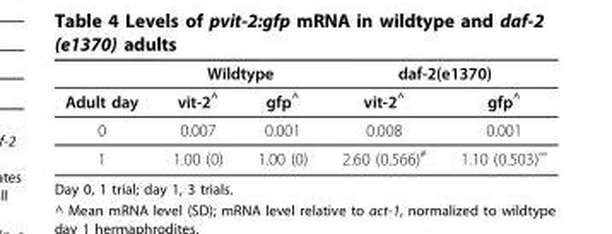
<table><thead><tr><td rowspan="2">Adult day</td><td colspan="2">Wildtype</td><td colspan="2">daf-2(e1370)</td></tr><tr><td>vit-2<sup>^</sup></td><td>gfp<sup>^</sup></td><td>vit-2<sup>^</sup></td><td>gfp<sup>^</sup></td></tr></thead><tbody><tr><td>0</td><td>0.007</td><td>0.001</td><td>0.008</td><td>0.001</td></tr><tr><td>1</td><td>1.00 (0)</td><td>1.00 (0)</td><td>2.60 (0.566)<sup>#</sup></td><td>1.10 (0.503)<sup>∞</sup></td></tr></tbody></table>